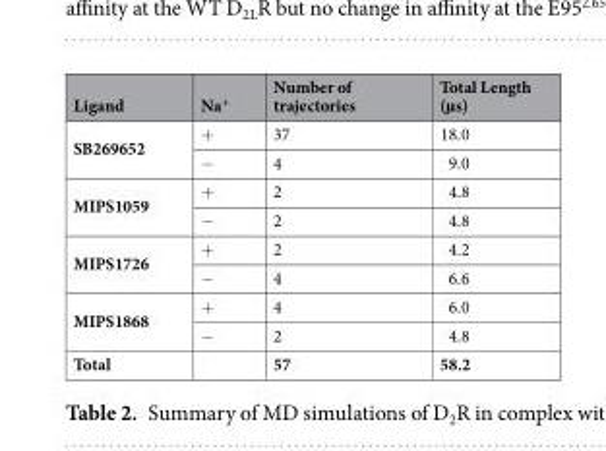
<table><thead><tr><td>Ligand</td><td>Na<sup>+</sup></td><td>Number of trajectories</td><td>Total Length (µs)</td></tr></thead><tbody><tr><td rowspan="2">SB269652</td><td>+</td><td>37</td><td>18.0</td></tr><tr><td>−</td><td>4</td><td>9.0</td></tr><tr><td rowspan="2">MIPS1059</td><td>+</td><td>2</td><td>4.8</td></tr><tr><td>−</td><td>2</td><td>4.8</td></tr><tr><td rowspan="2">MIPS1726</td><td>+</td><td>2</td><td>4.2</td></tr><tr><td>−</td><td>4</td><td>6.6</td></tr><tr><td rowspan="2">MIPS1868</td><td>+</td><td>4</td><td>6.0</td></tr><tr><td>−</td><td>2</td><td>4.8</td></tr><tr><td>Total</td><td></td><td>57</td><td>58.2</td></tr></tbody></table>